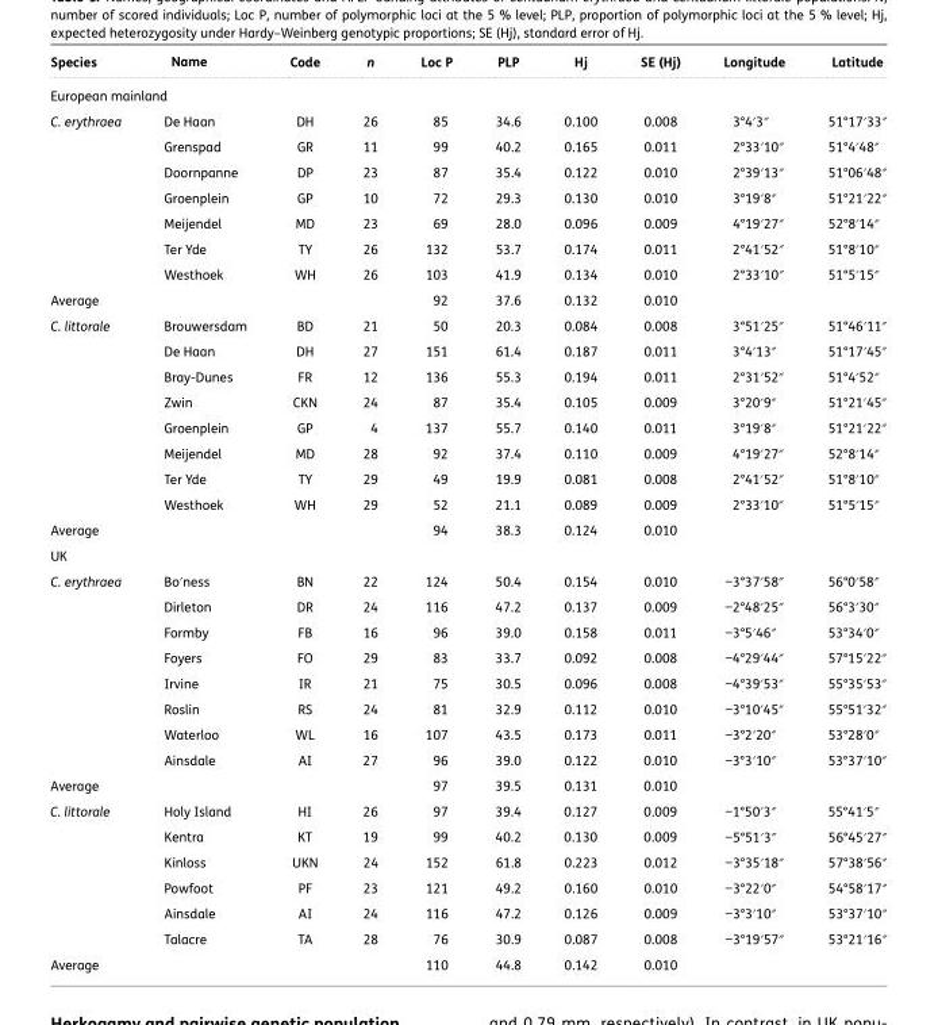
<table><thead><tr><td>Species</td><td>Name</td><td>Code</td><td>n</td><td>Loc P</td><td>PLP</td><td>Hj</td><td>SE (Hj)</td><td>Longitude</td><td>Latitude</td></tr></thead><tbody><tr><td colspan="10">European mainland</td></tr><tr><td rowspan="7">C. erythraea</td><td>De Haan</td><td>DH</td><td>26</td><td>85</td><td>34.6</td><td>0.100</td><td>0.008</td><td>3°4′3″</td><td>51°17′33″</td></tr><tr><td>Grenspad</td><td>GR</td><td>11</td><td>99</td><td>40.2</td><td>0.165</td><td>0.011</td><td>2°33′10″</td><td>51°4′48″</td></tr><tr><td>Doornpanne</td><td>DP</td><td>23</td><td>87</td><td>35.4</td><td>0.122</td><td>0.010</td><td>2°39′13″</td><td>51°06′48″</td></tr><tr><td>Groenplein</td><td>GP</td><td>10</td><td>72</td><td>29.3</td><td>0.130</td><td>0.010</td><td>3°19′8″</td><td>51°21′22″</td></tr><tr><td>Meijendel</td><td>MD</td><td>23</td><td>69</td><td>28.0</td><td>0.096</td><td>0.009</td><td>4°19′27″</td><td>52°8′14″</td></tr><tr><td>Ter Yde</td><td>TY</td><td>26</td><td>132</td><td>53.7</td><td>0.174</td><td>0.011</td><td>2°41′52″</td><td>51°8′10″</td></tr><tr><td>Westhoek</td><td>WH</td><td>26</td><td>103</td><td>41.9</td><td>0.134</td><td>0.010</td><td>2°33′10″</td><td>51°5′15″</td></tr><tr><td>Average</td><td></td><td></td><td></td><td>92</td><td>37.6</td><td>0.132</td><td>0.010</td><td></td><td></td></tr><tr><td rowspan="8">C. littorale</td><td>Brouwersdam</td><td>BD</td><td>21</td><td>50</td><td>20.3</td><td>0.084</td><td>0.008</td><td>3°51′25″</td><td>51°46′11″</td></tr><tr><td>De Haan</td><td>DH</td><td>27</td><td>151</td><td>61.4</td><td>0.187</td><td>0.011</td><td>3°4′13″</td><td>51°17′45″</td></tr><tr><td>Bray-Dunes</td><td>FR</td><td>12</td><td>136</td><td>55.3</td><td>0.194</td><td>0.011</td><td>2°31′52″</td><td>51°4′52″</td></tr><tr><td>Zwin</td><td>CKN</td><td>24</td><td>87</td><td>35.4</td><td>0.105</td><td>0.009</td><td>3°20′9″</td><td>51°21′45″</td></tr><tr><td>Groenplein</td><td>GP</td><td>4</td><td>137</td><td>55.7</td><td>0.140</td><td>0.011</td><td>3°19′8″</td><td>51°21′22″</td></tr><tr><td>Meijendel</td><td>MD</td><td>28</td><td>92</td><td>37.4</td><td>0.110</td><td>0.009</td><td>4°19′27″</td><td>52°8′14″</td></tr><tr><td>Ter Yde</td><td>TY</td><td>29</td><td>49</td><td>19.9</td><td>0.081</td><td>0.008</td><td>2°41′52″</td><td>51°8′10″</td></tr><tr><td>Westhoek</td><td>WH</td><td>29</td><td>52</td><td>21.1</td><td>0.089</td><td>0.009</td><td>2°33′10″</td><td>51°5′15″</td></tr><tr><td colspan="2">Average</td><td></td><td></td><td>94</td><td>38.3</td><td>0.124</td><td>0.010</td><td></td><td></td></tr><tr><td colspan="10">UK</td></tr><tr><td rowspan="8">C. erythraea</td><td>Bo′ness</td><td>BN</td><td>22</td><td>124</td><td>50.4</td><td>0.154</td><td>0.010</td><td>−3°37′58″</td><td>56°0′58″</td></tr><tr><td>Dirleton</td><td>DR</td><td>24</td><td>116</td><td>47.2</td><td>0.137</td><td>0.009</td><td>−2°48′25″</td><td>56°3′30″</td></tr><tr><td>Formby</td><td>FB</td><td>16</td><td>96</td><td>39.0</td><td>0.158</td><td>0.011</td><td>−3°5′46″</td><td>53°34′0″</td></tr><tr><td>Foyers</td><td>FO</td><td>29</td><td>83</td><td>33.7</td><td>0.092</td><td>0.008</td><td>−4°29′44″</td><td>57°15′22″</td></tr><tr><td>Irvine</td><td>IR</td><td>21</td><td>75</td><td>30.5</td><td>0.096</td><td>0.008</td><td>−4°39′53″</td><td>55°35′53″</td></tr><tr><td>Roslin</td><td>RS</td><td>24</td><td>81</td><td>32.9</td><td>0.112</td><td>0.010</td><td>−3°10′45″</td><td>55°51′32″</td></tr><tr><td>Waterloo</td><td>WL</td><td>16</td><td>107</td><td>43.5</td><td>0.173</td><td>0.011</td><td>−3°2′20″</td><td>53°28′0″</td></tr><tr><td>Ainsdale</td><td>AI</td><td>27</td><td>96</td><td>39.0</td><td>0.122</td><td>0.010</td><td>−3°3′10″</td><td>53°37′10″</td></tr><tr><td>Average</td><td></td><td></td><td></td><td>97</td><td>39.5</td><td>0.131</td><td>0.010</td><td></td><td></td></tr><tr><td rowspan="6">C. littorale</td><td>Holy Island</td><td>HI</td><td>26</td><td>97</td><td>39.4</td><td>0.127</td><td>0.009</td><td>−1°50′3″</td><td>55°41′5″</td></tr><tr><td>Kentra</td><td>KT</td><td>19</td><td>99</td><td>40.2</td><td>0.130</td><td>0.009</td><td>−5°51′3″</td><td>56°45′27″</td></tr><tr><td>Kinloss</td><td>UKN</td><td>24</td><td>152</td><td>61.8</td><td>0.223</td><td>0.012</td><td>−3°35′18″</td><td>57°38′56″</td></tr><tr><td>Powfoot</td><td>PF</td><td>23</td><td>121</td><td>49.2</td><td>0.160</td><td>0.010</td><td>−3°22′0″</td><td>54°58′17″</td></tr><tr><td>Ainsdale</td><td>AI</td><td>24</td><td>116</td><td>47.2</td><td>0.126</td><td>0.009</td><td>−3°3′10″</td><td>53°37′10″</td></tr><tr><td>Talacre</td><td>TA</td><td>28</td><td>76</td><td>30.9</td><td>0.087</td><td>0.008</td><td>−3°19′57″</td><td>53°21′16″</td></tr><tr><td>Average</td><td></td><td></td><td></td><td>110</td><td>44.8</td><td>0.142</td><td>0.010</td><td></td><td></td></tr></tbody></table>